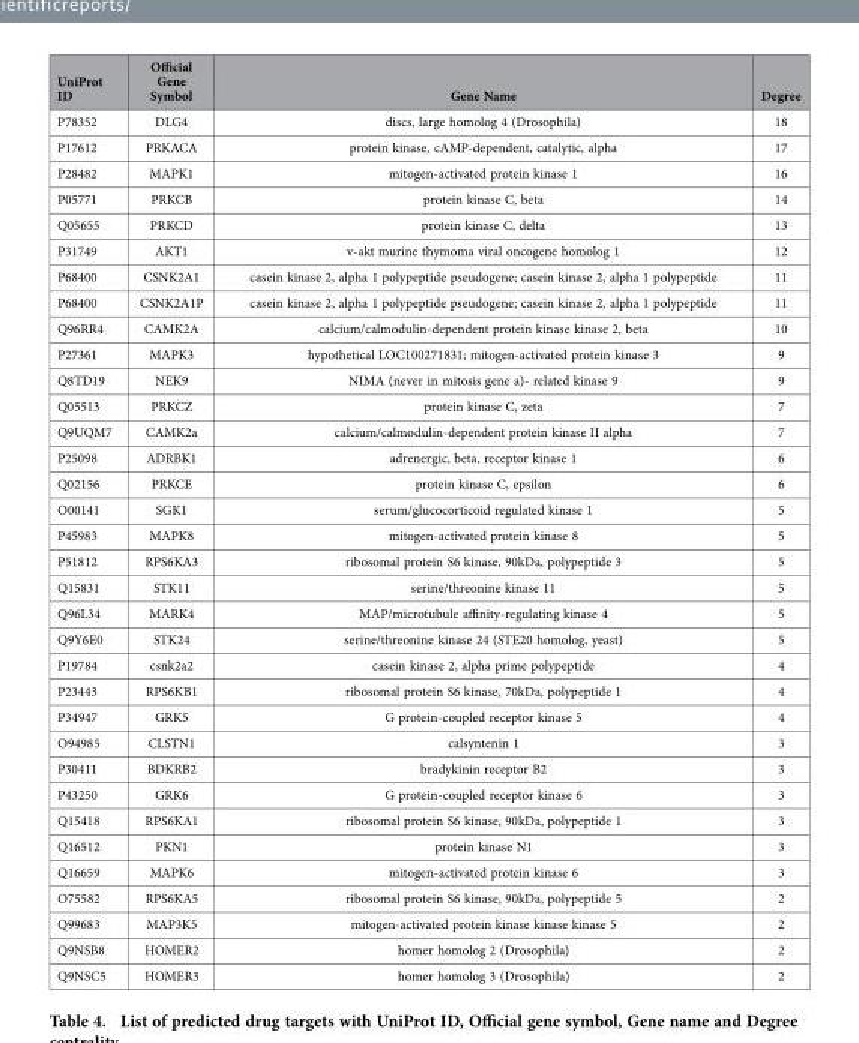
<table><thead><tr><td>UniProt ID</td><td>Official Gene Symbol</td><td>Gene Name</td><td>Degree</td></tr></thead><tbody><tr><td>P78352</td><td>DLG4</td><td>discs, large homolog 4 (Drosophila)</td><td>18</td></tr><tr><td>P17612</td><td>PRKACA</td><td>protein kinase, cAMP-dependent, catalytic, alpha</td><td>17</td></tr><tr><td>P28482</td><td>MAPK1</td><td>mitogen-activated protein kinase 1</td><td>16</td></tr><tr><td>P05771</td><td>PRKCB</td><td>protein kinase C, beta</td><td>14</td></tr><tr><td>Q05655</td><td>PRKCD</td><td>protein kinase C, delta</td><td>13</td></tr><tr><td>P31749</td><td>AKT1</td><td>v-akt murine thymoma viral oncogene homolog 1</td><td>12</td></tr><tr><td>P68400</td><td>CSNK2A1</td><td>casein kinase 2, alpha 1 polypeptide pseudogene; casein kinase 2, alpha 1 polypeptide</td><td>11</td></tr><tr><td>P68400</td><td>CSNK2A1P</td><td>casein kinase 2, alpha 1 polypeptide pseudogene; casein kinase 2, alpha 1 polypeptide</td><td>11</td></tr><tr><td>Q96RR4</td><td>CAMK2A</td><td>calcium/calmodulin-dependent protein kinase kinase 2, beta</td><td>10</td></tr><tr><td>P27361</td><td>MAPK3</td><td>hypothetical LOC100271831; mitogen-activated protein kinase 3</td><td>9</td></tr><tr><td>Q8TD19</td><td>NEK9</td><td>NIMA (never in mitosis gene a)- related kinase 9</td><td>9</td></tr><tr><td>Q05513</td><td>PRKCZ</td><td>protein kinase C, zeta</td><td>7</td></tr><tr><td>Q9UQM7</td><td>CAMK2a</td><td>calcium/calmodulin-dependent protein kinase II alpha</td><td>7</td></tr><tr><td>P25098</td><td>ADRBK1</td><td>adrenergic, beta, receptor kinase 1</td><td>6</td></tr><tr><td>Q02156</td><td>PRKCE</td><td>protein kinase C, epsilon</td><td>6</td></tr><tr><td>O00141</td><td>SGK1</td><td>serum/glucocorticoid regulated kinase 1</td><td>5</td></tr><tr><td>P45983</td><td>MAPK8</td><td>mitogen-activated protein kinase 8</td><td>5</td></tr><tr><td>P51812</td><td>RPS6KA3</td><td>ribosomal protein S6 kinase, 90kDa, polypeptide 3</td><td>5</td></tr><tr><td>Q15831</td><td>STK11</td><td>serine/threonine kinase 11</td><td>5</td></tr><tr><td>Q96L34</td><td>MARK4</td><td>MAP/microtubule affinity-regulating kinase 4</td><td>5</td></tr><tr><td>Q9Y6E0</td><td>STK24</td><td>serine/threonine kinase 24 (STE20 homolog, yeast)</td><td>5</td></tr><tr><td>P19784</td><td>csnk2a2</td><td>casein kinase 2, alpha prime polypeptide</td><td>4</td></tr><tr><td>P23443</td><td>RPS6KB1</td><td>ribosomal protein S6 kinase, 70kDa, polypeptide 1</td><td>4</td></tr><tr><td>P34947</td><td>GRK5</td><td>G protein-coupled receptor kinase 5</td><td>4</td></tr><tr><td>O94985</td><td>CLSTN1</td><td>calsyntenin 1</td><td>3</td></tr><tr><td>P30411</td><td>BDKRB2</td><td>bradykinin receptor B2</td><td>3</td></tr><tr><td>P43250</td><td>GRK6</td><td>G protein-coupled receptor kinase 6</td><td>3</td></tr><tr><td>Q15418</td><td>RPS6KA1</td><td>ribosomal protein S6 kinase, 90kDa, polypeptide 1</td><td>3</td></tr><tr><td>Q16512</td><td>PKN1</td><td>protein kinase N1</td><td>3</td></tr><tr><td>Q16659</td><td>MAPK6</td><td>mitogen-activated protein kinase 6</td><td>3</td></tr><tr><td>O75582</td><td>RPS6KA5</td><td>ribosomal protein S6 kinase, 90kDa, polypeptide 5</td><td>2</td></tr><tr><td>Q99683</td><td>MAP3K5</td><td>mitogen-activated protein kinase kinase kinase 5</td><td>2</td></tr><tr><td>Q9NSB8</td><td>HOMER2</td><td>homer homolog 2 (Drosophila)</td><td>2</td></tr><tr><td>Q9NSC5</td><td>HOMER3</td><td>homer homolog 3 (Drosophila)</td><td>2</td></tr></tbody></table>